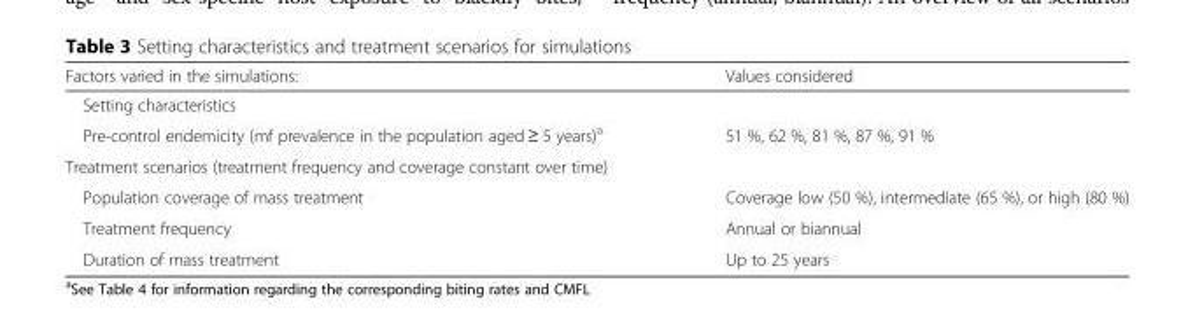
<table><thead><tr><td>Factors varied in the simulations:</td><td>Values considered</td></tr></thead><tbody><tr><td colspan="2">Setting characteristics</td></tr><tr><td>Pre-control endemicity (mf prevalence in the population aged ≥ 5 years)<sup>a</sup></td><td>51 %, 62 %, 81 %, 87 %, 91 %</td></tr><tr><td colspan="2">Treatment scenarios (treatment frequency and coverage constant over time)</td></tr><tr><td>Population coverage of mass treatment</td><td>Coverage low (50 %), intermediate (65 %), or high (80 %)</td></tr><tr><td>Treatment frequency</td><td>Annual or biannual</td></tr><tr><td>Duration of mass treatment</td><td>Up to 25 years</td></tr></tbody></table>